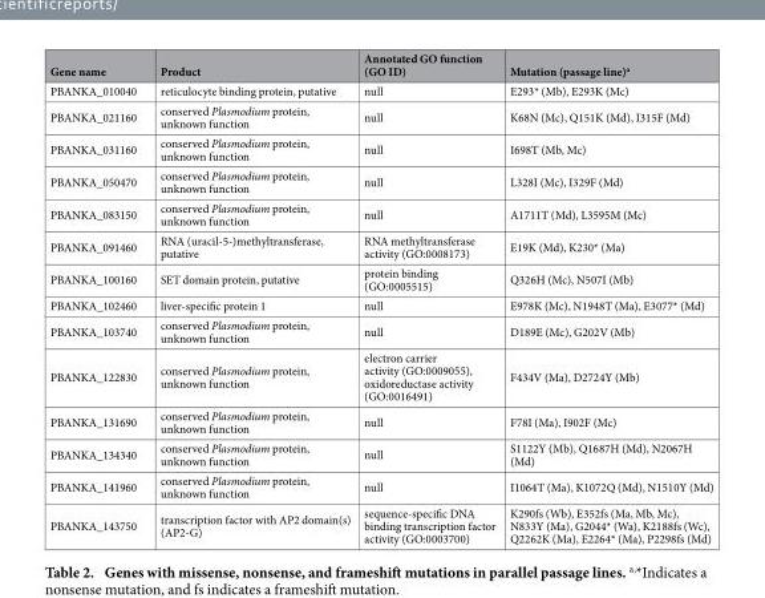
<table><thead><tr><td>Gene name</td><td>Product</td><td>Annotated GO function (GO ID)</td><td>Mutation (passage line)<sup>a</sup></td></tr></thead><tbody><tr><td>PBANKA_010040</td><td>reticulocyte binding protein, putative</td><td>null</td><td>E293* (Mb), E293K (Mc)</td></tr><tr><td>PBANKA_021160</td><td>conserved Plasmodium protein, unknown function</td><td>null</td><td>K68N (Mc), Q151K (Md), I315F (Md)</td></tr><tr><td>PBANKA_031160</td><td>conserved Plasmodium protein, unknown function</td><td>null</td><td>I698T (Mb, Mc)</td></tr><tr><td>PBANKA_050470</td><td>conserved Plasmodium protein, unknown function</td><td>null</td><td>L328I (Mc), I329F (Md)</td></tr><tr><td>PBANKA_083150</td><td>conserved Plasmodium protein, unknown function</td><td>null</td><td>A1711T (Md), L3595M (Mc)</td></tr><tr><td>PBANKA_091460</td><td>RNA (uracil-5-)methyltransferase, putative</td><td>RNA methyltransferase activity (GO:0008173)</td><td>E19K (Md), K230* (Ma)</td></tr><tr><td>PBANKA_100160</td><td>SET domain protein, putative</td><td>protein binding (GO:0005515)</td><td>Q326H (Mc), N507I (Mb)</td></tr><tr><td>PBANKA_102460</td><td>liver-specific protein 1</td><td>null</td><td>E978K (Mc), N1948T (Ma), E3077* (Md)</td></tr><tr><td>PBANKA_103740</td><td>conserved Plasmodium protein, unknown function</td><td>null</td><td>D189E (Mc), G202V (Mb)</td></tr><tr><td>PBANKA_122830</td><td>conserved Plasmodium protein, unknown function</td><td>electron carrier activity (GO:0009055), oxidoreductase activity (GO:0016491)</td><td>F434V (Ma), D2724Y (Mb)</td></tr><tr><td>PBANKA_131690</td><td>conserved Plasmodium protein, unknown function</td><td>null</td><td>F78I (Ma), I902F (Mc)</td></tr><tr><td>PBANKA_134340</td><td>conserved Plasmodium protein, unknown function</td><td>null</td><td>S1122Y (Mb), Q1687H (Md), N2067H (Md)</td></tr><tr><td>PBANKA_141960</td><td>conserved Plasmodium protein, unknown function</td><td>null</td><td>I1064T (Ma), K1072Q (Md), N1510Y (Md)</td></tr><tr><td>PBANKA_143750</td><td>transcription factor with AP2 domain(s) (AP2-G)</td><td>sequence-specific DNA binding transcription factor activity (GO:0003700)</td><td>K290fs (Wb), E352fs (Ma, Mb, Mc), N833Y (Ma), G2044* (Wa), K2188fs (Wc), Q2262K (Ma), E2264* (Ma), P2298fs (Md)</td></tr></tbody></table>